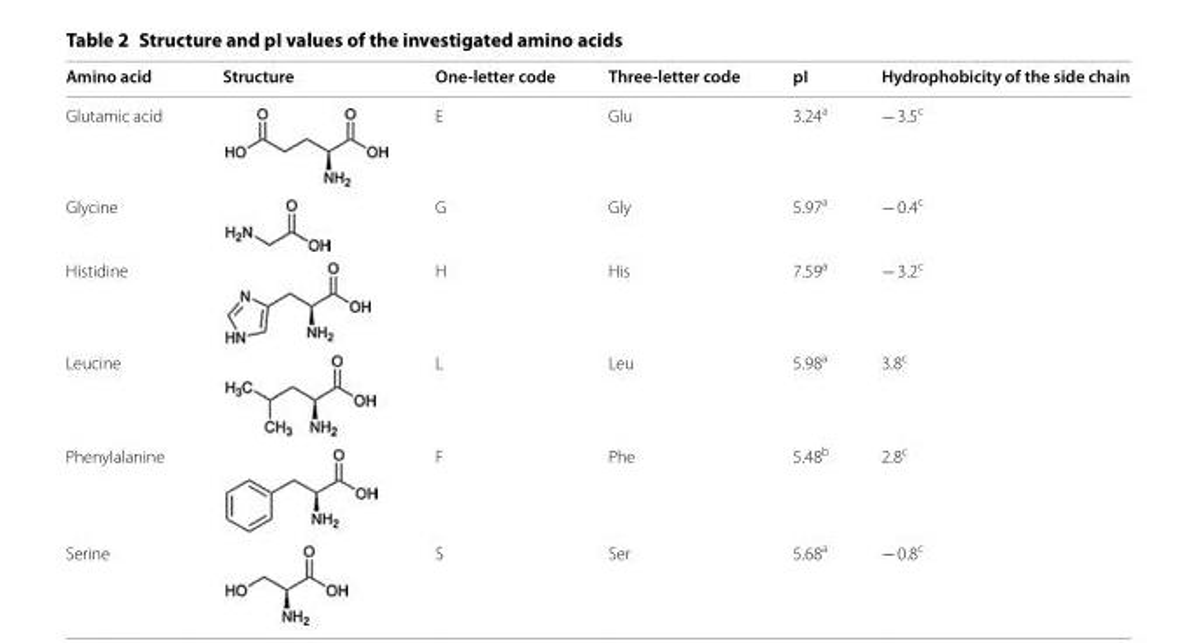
<table><thead><tr><td>Amino acid</td><td>Structure</td><td>One‑letter code</td><td>Three‑letter code</td><td>pI</td><td>Hydrophobicity of the side chain</td></tr></thead><tbody><tr><td>Glutamic acid</td><td></td><td>E</td><td>Glu</td><td>3.24<sup>a</sup></td><td>− 3.5<sup>c</sup></td></tr><tr><td>Glycine</td><td></td><td>G</td><td>Gly</td><td>5.97<sup>a</sup></td><td>− 0.4<sup>c</sup></td></tr><tr><td>Histidine</td><td></td><td>H</td><td>His</td><td>7.59<sup>a</sup></td><td>− 3.2<sup>c</sup></td></tr><tr><td>Leucine</td><td></td><td>L</td><td>Leu</td><td>5.98<sup>a</sup></td><td>3.8<sup>c</sup></td></tr><tr><td>Phenylalanine</td><td></td><td>F</td><td>Phe</td><td>5.48<sup>b</sup></td><td>2.8<sup>c</sup></td></tr><tr><td>Serine</td><td></td><td>S</td><td>Ser</td><td>5.68<sup>a</sup></td><td>− 0.8<sup>c</sup></td></tr></tbody></table>